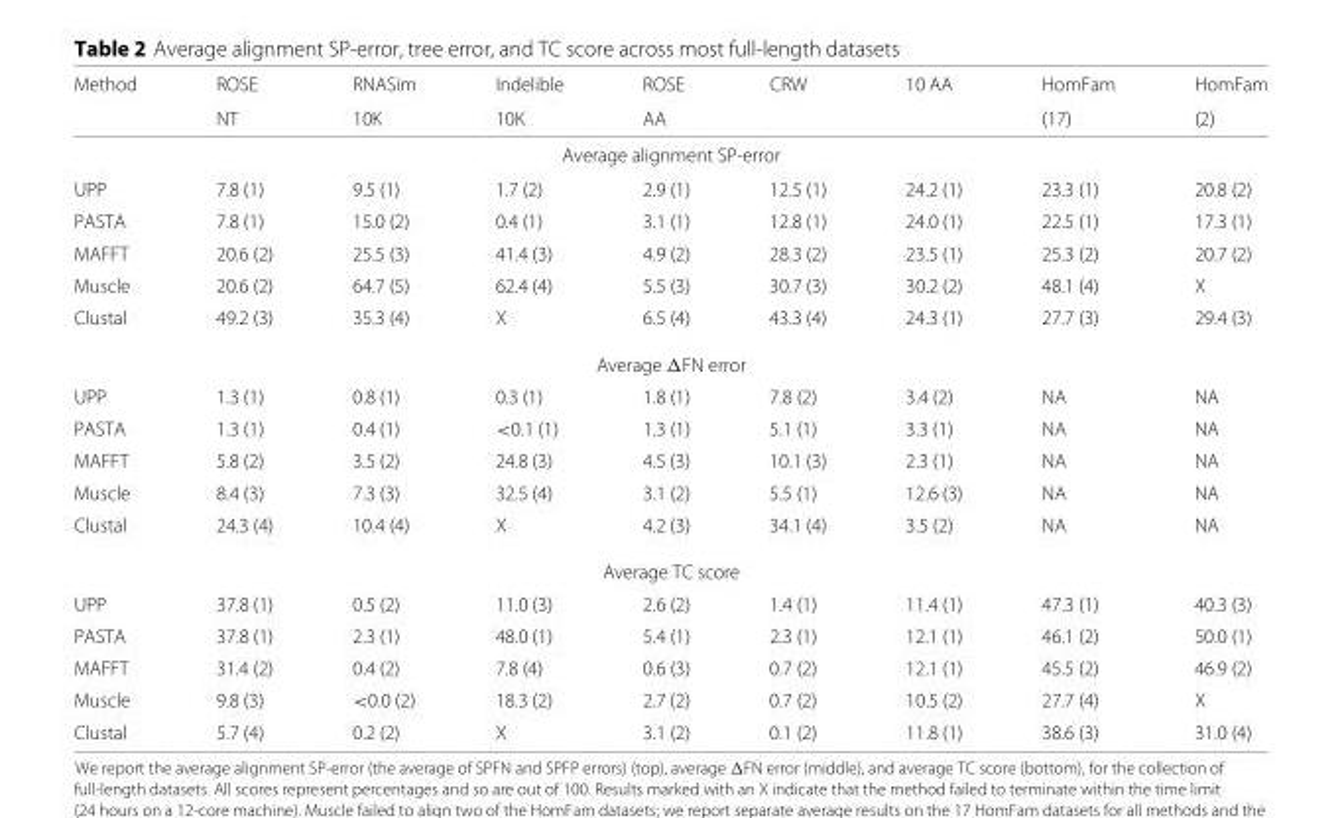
<table><thead><tr><td rowspan="2">Method</td><td rowspan="2">ROSE NT</td><td rowspan="2">RNASim 10K</td><td rowspan="2">Indelible 10K</td><td rowspan="2">ROSE AA</td><td rowspan="2">CRW</td><td rowspan="2">10 AA</td><td rowspan="2">HomFam (17)</td><td rowspan="2">HomFam (2)</td></tr><tr></tr></thead><tbody><tr><td colspan="9">Average alignment SP-error</td></tr><tr><td>UPP</td><td>7.8 (1)</td><td>9.5 (1)</td><td>1.7 (2)</td><td>2.9 (1)</td><td>12.5 (1)</td><td>24.2 (1)</td><td>23.3 (1)</td><td>20.8 (2)</td></tr><tr><td>PASTA</td><td>7.8 (1)</td><td>15.0 (2)</td><td>0.4 (1)</td><td>3.1 (1)</td><td>12.8 (1)</td><td>24.0 (1)</td><td>22.5 (1)</td><td>17.3 (1)</td></tr><tr><td>MAFFT</td><td>20.6 (2)</td><td>25.5 (3)</td><td>41.4 (3)</td><td>4.9 (2)</td><td>28.3 (2)</td><td>23.5 (1)</td><td>25.3 (2)</td><td>20.7 (2)</td></tr><tr><td>Muscle</td><td>20.6 (2)</td><td>64.7 (5)</td><td>62.4 (4)</td><td>5.5 (3)</td><td>30.7 (3)</td><td>30.2 (2)</td><td>48.1 (4)</td><td>X</td></tr><tr><td>Clustal</td><td>49.2 (3)</td><td>35.3 (4)</td><td>X</td><td>6.5 (4)</td><td>43.3 (4)</td><td>24.3 (1)</td><td>27.7 (3)</td><td>29.4 (3)</td></tr><tr><td colspan="9">Average ΔFN error</td></tr><tr><td>UPP</td><td>1.3 (1)</td><td>0.8 (1)</td><td>0.3 (1)</td><td>1.8 (1)</td><td>7.8 (2)</td><td>3.4 (2)</td><td>NA</td><td>NA</td></tr><tr><td>PASTA</td><td>1.3 (1)</td><td>0.4 (1)</td><td>&lt;0.1 (1)</td><td>1.3 (1)</td><td>5.1 (1)</td><td>3.3 (1)</td><td>NA</td><td>NA</td></tr><tr><td>MAFFT</td><td>5.8 (2)</td><td>3.5 (2)</td><td>24.8 (3)</td><td>4.5 (3)</td><td>10.1 (3)</td><td>2.3 (1)</td><td>NA</td><td>NA</td></tr><tr><td>Muscle</td><td>8.4 (3)</td><td>7.3 (3)</td><td>32.5 (4)</td><td>3.1 (2)</td><td>5.5 (1)</td><td>12.6 (3)</td><td>NA</td><td>NA</td></tr><tr><td>Clustal</td><td>24.3 (4)</td><td>10.4 (4)</td><td>X</td><td>4.2 (3)</td><td>34.1 (4)</td><td>3.5 (2)</td><td>NA</td><td>NA</td></tr><tr><td colspan="9">Average TC score</td></tr><tr><td>UPP</td><td>37.8 (1)</td><td>0.5 (2)</td><td>11.0 (3)</td><td>2.6 (2)</td><td>1.4 (1)</td><td>11.4 (1)</td><td>47.3 (1)</td><td>40.3 (3)</td></tr><tr><td>PASTA</td><td>37.8 (1)</td><td>2.3 (1)</td><td>48.0 (1)</td><td>5.4 (1)</td><td>2.3 (1)</td><td>12.1 (1)</td><td>46.1 (2)</td><td>50.0 (1)</td></tr><tr><td>MAFFT</td><td>31.4 (2)</td><td>0.4 (2)</td><td>7.8 (4)</td><td>0.6 (3)</td><td>0.7 (2)</td><td>12.1 (1)</td><td>45.5 (2)</td><td>46.9 (2)</td></tr><tr><td>Muscle</td><td>9.8 (3)</td><td>&lt;0.0 (2)</td><td>18.3 (2)</td><td>2.7 (2)</td><td>0.7 (2)</td><td>10.5 (2)</td><td>27.7 (4)</td><td>X</td></tr><tr><td>Clustal</td><td>5.7 (4)</td><td>0.2 (2)</td><td>X</td><td>3.1 (2)</td><td>0.1 (2)</td><td>11.8 (1)</td><td>38.6 (3)</td><td>31.0 (4)</td></tr></tbody></table>